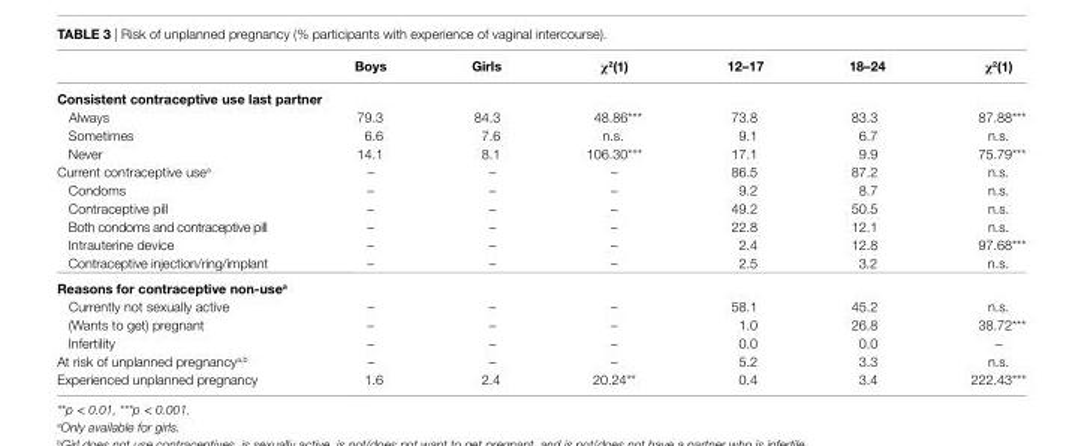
<table><thead><tr><td></td><td>Boys</td><td>girls</td><td>χ<sup>2</sup>(1)</td><td>12–17</td><td>18–24</td><td>χ<sup>2</sup>(1)</td></tr></thead><tbody><tr><td colspan="7">consistent contraceptive use last partner</td></tr><tr><td>Always</td><td>79.3</td><td>84.3</td><td>48.86***</td><td>73.8</td><td>83.3</td><td>87.88***</td></tr><tr><td>Sometimes</td><td>6.6</td><td>7.6</td><td>n.s.</td><td>9.1</td><td>6.7</td><td>n.s.</td></tr><tr><td>Never</td><td>14.1</td><td>8.1</td><td>106.30***</td><td>17.1</td><td>9.9</td><td>75.79***</td></tr><tr><td>Current contraceptive use<sup>a</sup></td><td>–</td><td>–</td><td>–</td><td>86.5</td><td>87.2</td><td>n.s.</td></tr><tr><td>Condoms</td><td>–</td><td>–</td><td>–</td><td>9.2</td><td>8.7</td><td>n.s.</td></tr><tr><td>Contraceptive pill</td><td>–</td><td>–</td><td>–</td><td>49.2</td><td>50.5</td><td>n.s.</td></tr><tr><td>Both condoms and contraceptive pill</td><td>–</td><td>–</td><td>–</td><td>22.8</td><td>12.1</td><td>n.s.</td></tr><tr><td>Intrauterine device</td><td>–</td><td>–</td><td>–</td><td>2.4</td><td>12.8</td><td>97.68***</td></tr><tr><td>Contraceptive injection/ring/implant</td><td>–</td><td>–</td><td>–</td><td>2.5</td><td>3.2</td><td>n.s.</td></tr><tr><td colspan="7">reasons for contraceptive non-use<sup>a</sup></td></tr><tr><td>Currently not sexually active</td><td>–</td><td>–</td><td>–</td><td>58.1</td><td>45.2</td><td>n.s.</td></tr><tr><td>(Wants to get) pregnant</td><td>–</td><td>–</td><td>–</td><td>1.0</td><td>26.8</td><td>38.72***</td></tr><tr><td>Infertility</td><td>–</td><td>–</td><td>–</td><td>0.0</td><td>0.0</td><td>–</td></tr><tr><td>At risk of unplanned pregnancy<sup>a,b</sup></td><td>–</td><td>–</td><td>–</td><td>5.2</td><td>3.3</td><td>n.s.</td></tr><tr><td>Experienced unplanned pregnancy</td><td>1.6</td><td>2.4</td><td>20.24**</td><td>0.4</td><td>3.4</td><td>222.43***</td></tr></tbody></table>